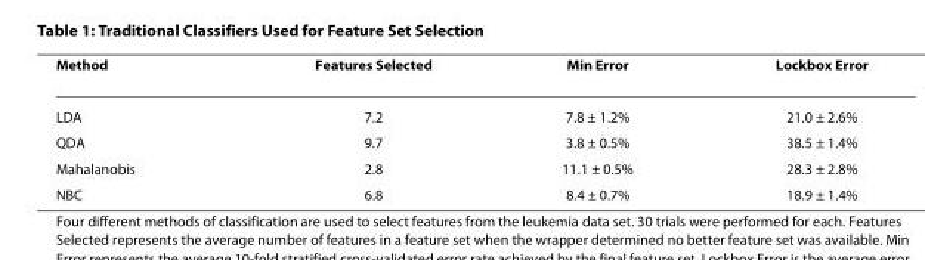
<table><thead><tr><td>Method</td><td>Features Selected</td><td>Min Error</td><td>Lockbox Error</td></tr></thead><tbody><tr><td>LDA</td><td>7.2</td><td>7.8 ± 1.2%</td><td>21.0 ± 2.6%</td></tr><tr><td>QDA</td><td>9.7</td><td>3.8 ± 0.5%</td><td>38.5 ± 1.4%</td></tr><tr><td>Mahalanobis</td><td>2.8</td><td>11.1 ± 0.5%</td><td>28.3 ± 2.8%</td></tr><tr><td>NBC</td><td>6.8</td><td>8.4 ± 0.7%</td><td>18.9 ± 1.4%</td></tr></tbody></table>